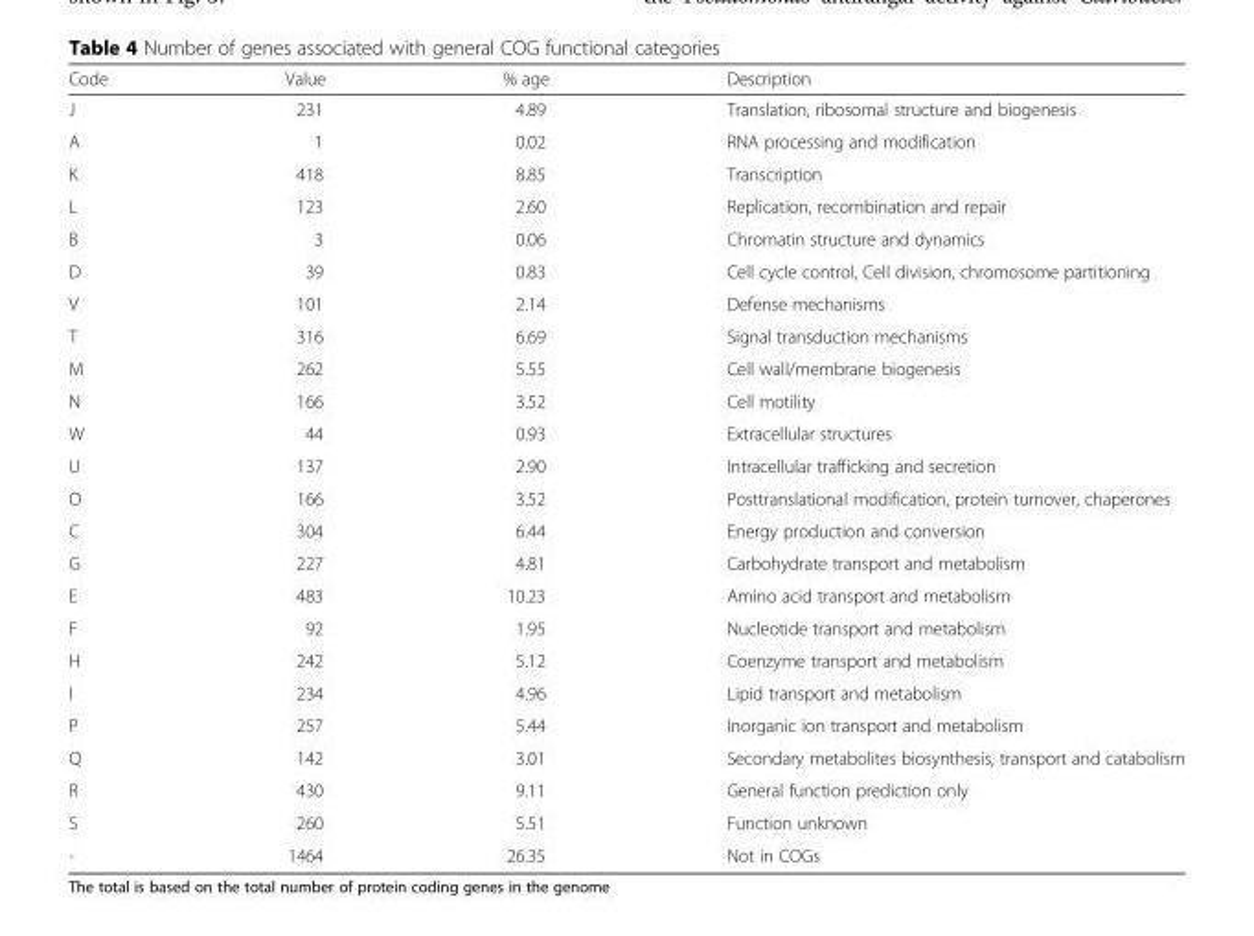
<table><thead><tr><td>Code</td><td>Value</td><td>% age</td><td>Description</td></tr></thead><tbody><tr><td>J</td><td>231</td><td>4.89</td><td>Translation, ribosomal structure and biogenesis</td></tr><tr><td>A</td><td>1</td><td>0.02</td><td>RNA processing and modification</td></tr><tr><td>K</td><td>418</td><td>8.85</td><td>Transcription</td></tr><tr><td>L</td><td>123</td><td>2.60</td><td>Replication, recombination and repair</td></tr><tr><td>B</td><td>3</td><td>0.06</td><td>Chromatin structure and dynamics</td></tr><tr><td>D</td><td>39</td><td>0.83</td><td>Cell cycle control, Cell division, chromosome partitioning</td></tr><tr><td>V</td><td>101</td><td>2.14</td><td>Defense mechanisms</td></tr><tr><td>T</td><td>316</td><td>6.69</td><td>Signal transduction mechanisms</td></tr><tr><td>M</td><td>262</td><td>5.55</td><td>Cell wall/membrane biogenesis</td></tr><tr><td>N</td><td>166</td><td>3.52</td><td>Cell motility</td></tr><tr><td>W</td><td>44</td><td>0.93</td><td>Extracellular structures</td></tr><tr><td>U</td><td>137</td><td>2.90</td><td>Intracellular trafficking and secretion</td></tr><tr><td>O</td><td>166</td><td>3.52</td><td>Posttranslational modification, protein turnover, chaperones</td></tr><tr><td>C</td><td>304</td><td>6.44</td><td>Energy production and conversion</td></tr><tr><td>G</td><td>227</td><td>4.81</td><td>Carbohydrate transport and metabolism</td></tr><tr><td>E</td><td>483</td><td>10.23</td><td>Amino acid transport and metabolism</td></tr><tr><td>F</td><td>92</td><td>1.95</td><td>Nucleotide transport and metabolism</td></tr><tr><td>H</td><td>242</td><td>5.12</td><td>Coenzyme transport and metabolism</td></tr><tr><td>I</td><td>234</td><td>4.96</td><td>Lipid transport and metabolism</td></tr><tr><td>P</td><td>257</td><td>5.44</td><td>Inorganic ion transport and metabolism</td></tr><tr><td>Q</td><td>142</td><td>3.01</td><td>Secondary metabolites biosynthesis, transport and catabolism</td></tr><tr><td>R</td><td>430</td><td>9.11</td><td>General function prediction only</td></tr><tr><td>S</td><td>260</td><td>5.51</td><td>Function unknown</td></tr><tr><td>-</td><td>1464</td><td>26.35</td><td>Not in COGs</td></tr></tbody></table>